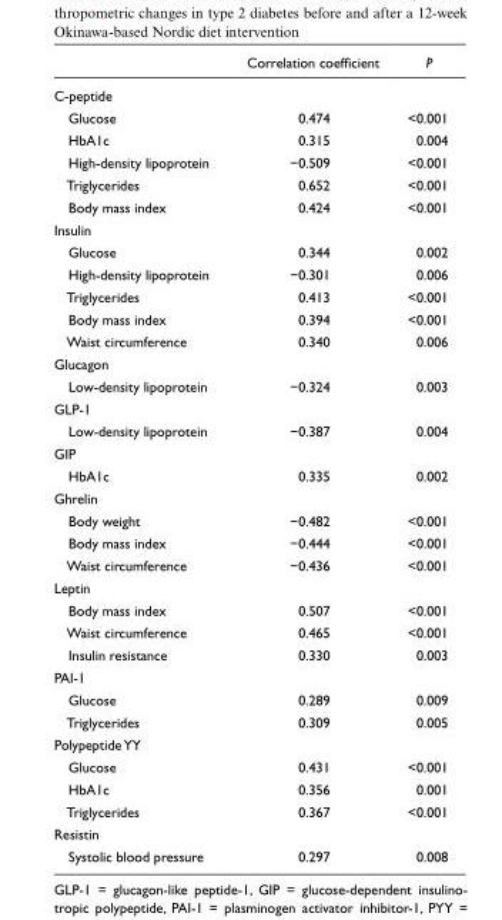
<table><thead><tr><td></td><td>Correlation coefficient</td><td>P</td></tr></thead><tbody><tr><td colspan="3">C-peptide</td></tr><tr><td>Glucose</td><td>0.474</td><td>&lt;0.001</td></tr><tr><td>HbA1c</td><td>0.315</td><td>0.004</td></tr><tr><td>High-density lipoprotein</td><td>−0.509</td><td>&lt;0.001</td></tr><tr><td>Triglycerides</td><td>0.652</td><td>&lt;0.001</td></tr><tr><td>Body mass index</td><td>0.424</td><td>&lt;0.001</td></tr><tr><td colspan="3">Insulin</td></tr><tr><td>Glucose</td><td>0.344</td><td>0.002</td></tr><tr><td>High-density lipoprotein</td><td>−0.301</td><td>0.006</td></tr><tr><td>Triglycerides</td><td>0.413</td><td>&lt;0.001</td></tr><tr><td>Body mass index</td><td>0.394</td><td>&lt;0.001</td></tr><tr><td>Waist circumference</td><td>0.340</td><td>0.006</td></tr><tr><td colspan="3">Glucagon</td></tr><tr><td>Low-density lipoprotein</td><td>−0.324</td><td>0.003</td></tr><tr><td colspan="3">GLP-1</td></tr><tr><td>Low-density lipoprotein</td><td>−0.387</td><td>0.004</td></tr><tr><td colspan="3">GIP</td></tr><tr><td>HbA1c</td><td>0.335</td><td>0.002</td></tr><tr><td colspan="3">Ghrelin</td></tr><tr><td>Body weight</td><td>−0.482</td><td>&lt;0.001</td></tr><tr><td>Body mass index</td><td>−0.444</td><td>&lt;0.001</td></tr><tr><td>Waist circumference</td><td>−0.436</td><td>&lt;0.001</td></tr><tr><td colspan="3">Leptin</td></tr><tr><td>Body mass index</td><td>0.507</td><td>&lt;0.001</td></tr><tr><td>Waist circumference</td><td>0.465</td><td>&lt;0.001</td></tr><tr><td>Insulin resistance</td><td>0.330</td><td>0.003</td></tr><tr><td colspan="3">PAI-1</td></tr><tr><td>Glucose</td><td>0.289</td><td>0.009</td></tr><tr><td>Triglycerides</td><td>0.309</td><td>0.005</td></tr><tr><td colspan="3">Polypeptide YY</td></tr><tr><td>Glucose</td><td>0.431</td><td>&lt;0.001</td></tr><tr><td>HbA1c</td><td>0.356</td><td>0.001</td></tr><tr><td>Triglycerides</td><td>0.367</td><td>&lt;0.001</td></tr><tr><td colspan="3">Resistin</td></tr><tr><td>Systolic blood pressure</td><td>0.297</td><td>0.008</td></tr></tbody></table>